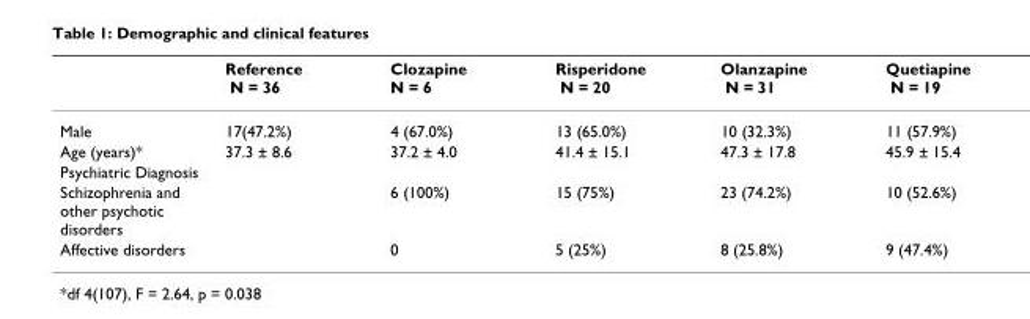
<table><thead><tr><td></td><td>Reference N = 36</td><td>Clozapine N = 6</td><td>Risperidone N = 20</td><td>Olanzapine N = 31</td><td>Quetiapine N = 19</td></tr></thead><tbody><tr><td>Male</td><td>17(47.2%)</td><td>4 (67.0%)</td><td>13 (65.0%)</td><td>10 (32.3%)</td><td>11 (57.9%)</td></tr><tr><td>Age (years)*</td><td>37.3 ± 8.6</td><td>37.2 ± 4.0</td><td>41.4 ± 15.1</td><td>47.3 ± 17.8</td><td>45.9 ± 15.4</td></tr><tr><td colspan="6">Psychiatric Diagnosis</td></tr><tr><td>Schizophrenia and other psychotic disorders</td><td></td><td>6 (100%)</td><td>15 (75%)</td><td>23 (74.2%)</td><td>10 (52.6%)</td></tr><tr><td>Affective disorders</td><td></td><td>0</td><td>5 (25%)</td><td>8 (25.8%)</td><td>9 (47.4%)</td></tr></tbody></table>